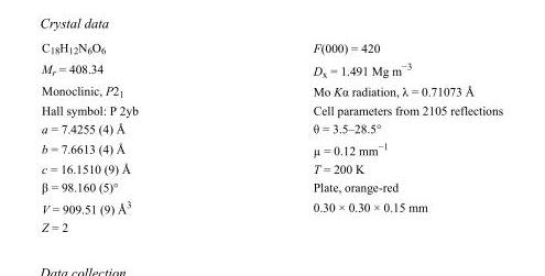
<table><tbody><tr><td>C<sub>18</sub>H<sub>12</sub>N<sub>6</sub>O<sub>6</sub></td><td>F(000) = 420</td></tr><tr><td>M<sub>r</sub> = 408.34</td><td>D<sub>x</sub> = 1.491 Mg m<sup>−3</sup></td></tr><tr><td>Monoclinic, P2<sub>1</sub></td><td>Mo Kα radiation, λ = 0.71073 Å</td></tr><tr><td>Hall symbol: P 2yb</td><td>Cell parameters from 2105 reflections</td></tr><tr><td>a = 7.4255 (4) Å</td><td>θ = 3.5–28.5°</td></tr><tr><td>b = 7.6613 (4) Å</td><td>µ = 0.12 mm<sup>−1</sup></td></tr><tr><td>c = 16.1510 (9) Å</td><td>T = 200 K</td></tr><tr><td>β = 98.160 (5)°</td><td>Plate, orange-red</td></tr><tr><td>V = 909.51 (9) Å<sup>3</sup></td><td>0.30 × 0.30 × 0.15 mm</td></tr><tr><td>Z = 2</td><td></td></tr></tbody></table>